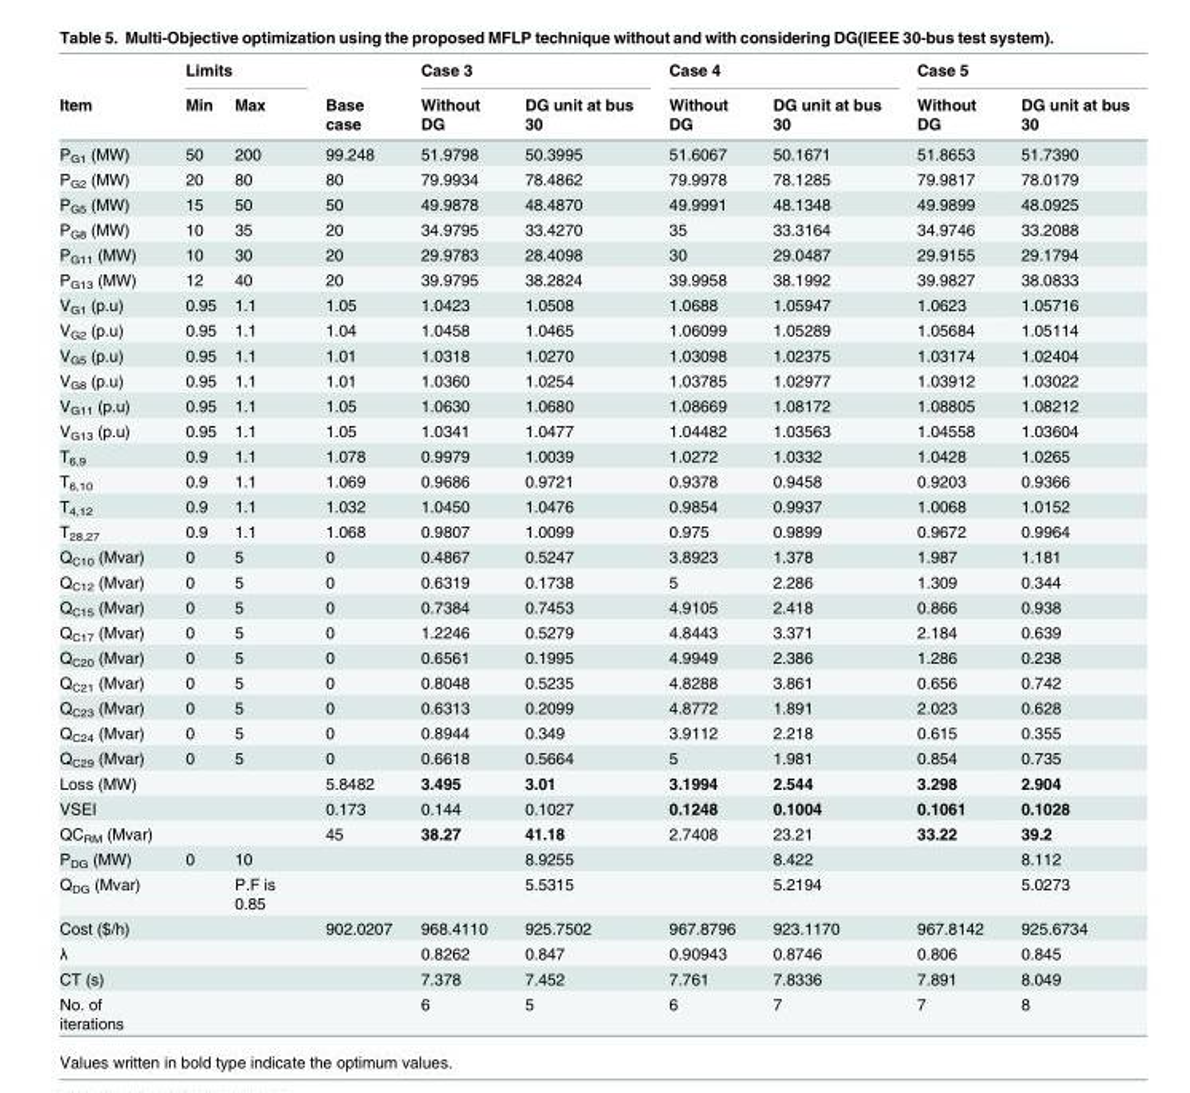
<table><thead><tr><td rowspan="2">Item</td><td colspan="2">Limits</td><td rowspan="2">Base case</td><td colspan="2">Case 3</td><td colspan="2">Case 4</td><td colspan="2">Case 5</td></tr><tr><td>Min</td><td>Max</td><td>Without DG</td><td>DG unit at bus 30</td><td>Without DG</td><td>DG unit at bus 30</td><td>Without DG</td><td>DG unit at bus 30</td></tr></thead><tbody><tr><td>P<sub>G1</sub> (MW)</td><td>50</td><td>200</td><td>99.248</td><td>51.9798</td><td>50.3995</td><td>51.6067</td><td>50.1671</td><td>51.8653</td><td>51.7390</td></tr><tr><td>P<sub>G2</sub> (MW)</td><td>20</td><td>80</td><td>80</td><td>79.9934</td><td>78.4862</td><td>79.9978</td><td>78.1285</td><td>79.9817</td><td>78.0179</td></tr><tr><td>P<sub>G5</sub> (MW)</td><td>15</td><td>50</td><td>50</td><td>49.9878</td><td>48.4870</td><td>49.9991</td><td>48.1348</td><td>49.9899</td><td>48.0925</td></tr><tr><td>P<sub>G8</sub> (MW)</td><td>10</td><td>35</td><td>20</td><td>34.9795</td><td>33.4270</td><td>35</td><td>33.3164</td><td>34.9746</td><td>33.2088</td></tr><tr><td>P<sub>G11</sub> (MW)</td><td>10</td><td>30</td><td>20</td><td>29.9783</td><td>28.4098</td><td>30</td><td>29.0487</td><td>29.9155</td><td>29.1794</td></tr><tr><td>P<sub>G13</sub> (MW)</td><td>12</td><td>40</td><td>20</td><td>39.9795</td><td>38.2824</td><td>39.9958</td><td>38.1992</td><td>39.9827</td><td>38.0833</td></tr><tr><td>V<sub>G1</sub> (p.u)</td><td>0.95</td><td>1.1</td><td>1.05</td><td>1.0423</td><td>1.0508</td><td>1.0688</td><td>1.05947</td><td>1.0623</td><td>1.05716</td></tr><tr><td>V<sub>G2</sub> (p.u)</td><td>0.95</td><td>1.1</td><td>1.04</td><td>1.0458</td><td>1.0465</td><td>1.06099</td><td>1.05289</td><td>1.05684</td><td>1.05114</td></tr><tr><td>V<sub>G5</sub> (p.u)</td><td>0.95</td><td>1.1</td><td>1.01</td><td>1.0318</td><td>1.0270</td><td>1.03098</td><td>1.02375</td><td>1.03174</td><td>1.02404</td></tr><tr><td>V<sub>G8</sub> (p.u)</td><td>0.95</td><td>1.1</td><td>1.01</td><td>1.0360</td><td>1.0254</td><td>1.03785</td><td>1.02977</td><td>1.03912</td><td>1.03022</td></tr><tr><td>V<sub>G11</sub> (p.u)</td><td>0.95</td><td>1.1</td><td>1.05</td><td>1.0630</td><td>1.0680</td><td>1.08669</td><td>1.08172</td><td>1.08805</td><td>1.08212</td></tr><tr><td>V<sub>G13</sub> (p.u)</td><td>0.95</td><td>1.1</td><td>1.05</td><td>1.0341</td><td>1.0477</td><td>1.04482</td><td>1.03563</td><td>1.04558</td><td>1.03604</td></tr><tr><td>T<sub>6,9</sub></td><td>0.9</td><td>1.1</td><td>1.078</td><td>0.9979</td><td>1.0039</td><td>1.0272</td><td>1.0332</td><td>1.0428</td><td>1.0265</td></tr><tr><td>T<sub>6,10</sub></td><td>0.9</td><td>1.1</td><td>1.069</td><td>0.9686</td><td>0.9721</td><td>0.9378</td><td>0.9458</td><td>0.9203</td><td>0.9366</td></tr><tr><td>T<sub>4,12</sub></td><td>0.9</td><td>1.1</td><td>1.032</td><td>1.0450</td><td>1.0476</td><td>0.9854</td><td>0.9937</td><td>1.0068</td><td>1.0152</td></tr><tr><td>T<sub>28,27</sub></td><td>0.9</td><td>1.1</td><td>1.068</td><td>0.9807</td><td>1.0099</td><td>0.975</td><td>0.9899</td><td>0.9672</td><td>0.9964</td></tr><tr><td>Q<sub>C10</sub> (Mvar)</td><td>0</td><td>5</td><td>0</td><td>0.4867</td><td>0.5247</td><td>3.8923</td><td>1.378</td><td>1.987</td><td>1.181</td></tr><tr><td>Q<sub>C12</sub> (Mvar)</td><td>0</td><td>5</td><td>0</td><td>0.6319</td><td>0.1738</td><td>5</td><td>2.286</td><td>1.309</td><td>0.344</td></tr><tr><td>Q<sub>C15</sub> (Mvar)</td><td>0</td><td>5</td><td>0</td><td>0.7384</td><td>0.7453</td><td>4.9105</td><td>2.418</td><td>0.866</td><td>0.938</td></tr><tr><td>Q<sub>C17</sub> (Mvar)</td><td>0</td><td>5</td><td>0</td><td>1.2246</td><td>0.5279</td><td>4.8443</td><td>3.371</td><td>2.184</td><td>0.639</td></tr><tr><td>Q<sub>C20</sub> (Mvar)</td><td>0</td><td>5</td><td>0</td><td>0.6561</td><td>0.1995</td><td>4.9949</td><td>2.386</td><td>1.286</td><td>0.238</td></tr><tr><td>Q<sub>C21</sub> (Mvar)</td><td>0</td><td>5</td><td>0</td><td>0.8048</td><td>0.5235</td><td>4.8288</td><td>3.861</td><td>0.656</td><td>0.742</td></tr><tr><td>Q<sub>C23</sub> (Mvar)</td><td>0</td><td>5</td><td>0</td><td>0.6313</td><td>0.2099</td><td>4.8772</td><td>1.891</td><td>2.023</td><td>0.628</td></tr><tr><td>Q<sub>C24</sub> (Mvar)</td><td>0</td><td>5</td><td>0</td><td>0.8944</td><td>0.349</td><td>3.9112</td><td>2.218</td><td>0.615</td><td>0.355</td></tr><tr><td>Q<sub>C29</sub> (Mvar)</td><td>0</td><td>5</td><td>0</td><td>0.6618</td><td>0.5664</td><td>5</td><td>1.981</td><td>0.854</td><td>0.735</td></tr><tr><td>Loss (MW)</td><td></td><td></td><td>5.8482</td><td>3.495</td><td>3.01</td><td>3.1994</td><td>2.544</td><td>3.298</td><td>2.904</td></tr><tr><td>VSEI</td><td></td><td></td><td>0.173</td><td>0.144</td><td>0.1027</td><td>0.1248</td><td>0.1004</td><td>0.1061</td><td>0.1028</td></tr><tr><td>QC<sub>RM</sub> (Mvar)</td><td></td><td></td><td>45</td><td>38.27</td><td>41.18</td><td>2.7408</td><td>23.21</td><td>33.22</td><td>39.2</td></tr><tr><td>P<sub>DG</sub> (MW)</td><td>0</td><td>10</td><td></td><td></td><td>8.9255</td><td></td><td>8.422</td><td></td><td>8.112</td></tr><tr><td>Q<sub>DG</sub> (Mvar)</td><td></td><td>P.F is 0.85</td><td></td><td></td><td>5.5315</td><td></td><td>5.2194</td><td></td><td>5.0273</td></tr><tr><td>Cost ($/h)</td><td></td><td></td><td>902.0207</td><td>968.4110</td><td>925.7502</td><td>967.8796</td><td>923.1170</td><td>967.8142</td><td>925.6734</td></tr><tr><td>λ</td><td></td><td></td><td></td><td>0.8262</td><td>0.847</td><td>0.90943</td><td>0.8746</td><td>0.806</td><td>0.845</td></tr><tr><td>CT (s)</td><td></td><td></td><td></td><td>7.378</td><td>7.452</td><td>7.761</td><td>7.8336</td><td>7.891</td><td>8.049</td></tr><tr><td>No. of iterations</td><td></td><td></td><td></td><td>6</td><td>5</td><td>6</td><td>7</td><td>7</td><td>8</td></tr></tbody></table>